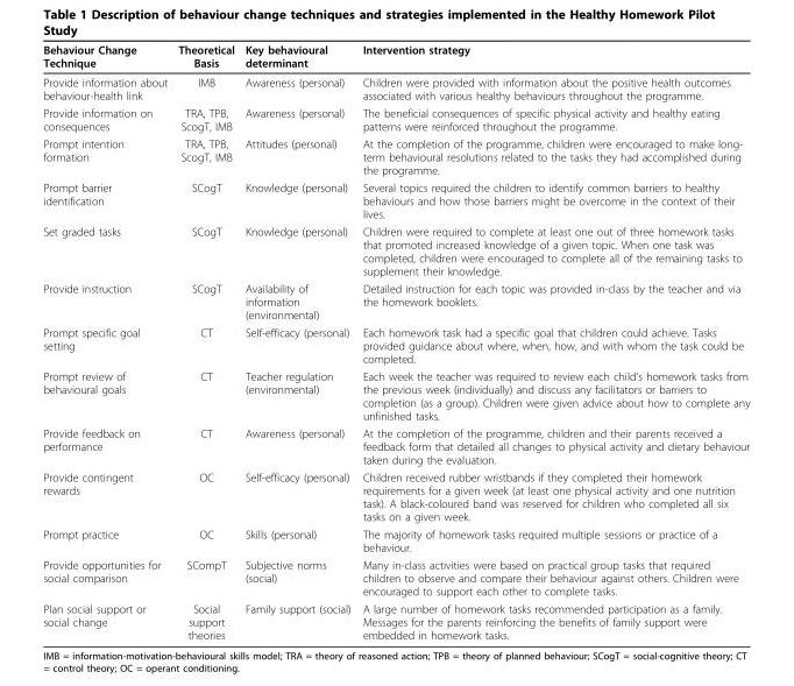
<table><thead><tr><td>Behaviour Change Technique</td><td>Theoretical Basis</td><td>Key behavioural determinant</td><td>Intervention strategy</td></tr></thead><tbody><tr><td>Provide information about behaviour-health link</td><td>IMB</td><td>Awareness (personal)</td><td>Children were provided with information about the positive health outcomes associated with various healthy behaviours throughout the programme.</td></tr><tr><td>Provide information on consequences</td><td>TRA, TPB, ScogT, IMB</td><td>Awareness (personal)</td><td>The beneficial consequences of specific physical activity and healthy eating patterns were reinforced throughout the programme.</td></tr><tr><td>Prompt intention formation</td><td>TRA, TPB, ScogT, IMB</td><td>Attitudes (personal)</td><td>At the completion of the programme, children were encouraged to make long- term behavioural resolutions related to the tasks they had accomplished during the programme.</td></tr><tr><td>Prompt barrier identification</td><td>SCogT</td><td>Knowledge (personal)</td><td>Several topics required the children to identify common barriers to healthy behaviours and how those barriers might be overcome in the context of their lives.</td></tr><tr><td>Set graded tasks</td><td>SCogT</td><td>Knowledge (personal)</td><td>Children were required to complete at least one out of three homework tasks that promoted increased knowledge of a given topic. When one task was completed, children were encouraged to complete all of the remaining tasks to supplement their knowledge.</td></tr><tr><td>Provide instruction</td><td>SCogT</td><td>Availability of information (environmental)</td><td>Detailed instruction for each topic was provided in-class by the teacher and via the homework booklets.</td></tr><tr><td>Prompt specific goal setting</td><td>CT</td><td>Self-efficacy (personal)</td><td>Each homework task had a specific goal that children could achieve. Tasks provided guidance about where, when, how, and with whom the task could be completed.</td></tr><tr><td>Prompt review of behavioural goals</td><td>CT</td><td>Teacher regulation (environmental)</td><td>Each week the teacher was required to review each child’s homework tasks from the previous week (individually) and discuss any facilitators or barriers to completion (as a group). Children were given advice about how to complete any unfinished tasks.</td></tr><tr><td>Provide feedback on performance</td><td>CT</td><td>Awareness (personal)</td><td>At the completion of the programme, children and their parents received a feedback form that detailed all changes to physical activity and dietary behaviour taken during the evaluation.</td></tr><tr><td>Provide contingent rewards</td><td>OC</td><td>Self-efficacy (personal)</td><td>Children received rubber wristbands if they completed their homework requirements for a given week (at least one physical activity and one nutrition task). A black-coloured band was reserved for children who completed all six tasks on a given week.</td></tr><tr><td>Prompt practice</td><td>OC</td><td>Skills (personal)</td><td>The majority of homework tasks required multiple sessions or practice of a behaviour.</td></tr><tr><td>Provide opportunities for social comparison</td><td>SCompT</td><td>Subjective norms (social)</td><td>Many in-class activities were based on practical group tasks that required children to observe and compare their behaviour against others. Children were encouraged to support each other to complete tasks.</td></tr><tr><td>Plan social support or social change</td><td>Social support theories</td><td>Family support (social)</td><td>A large number of homework tasks recommended participation as a family. Messages for the parents reinforcing the benefits of family support were embedded in homework tasks.</td></tr></tbody></table>